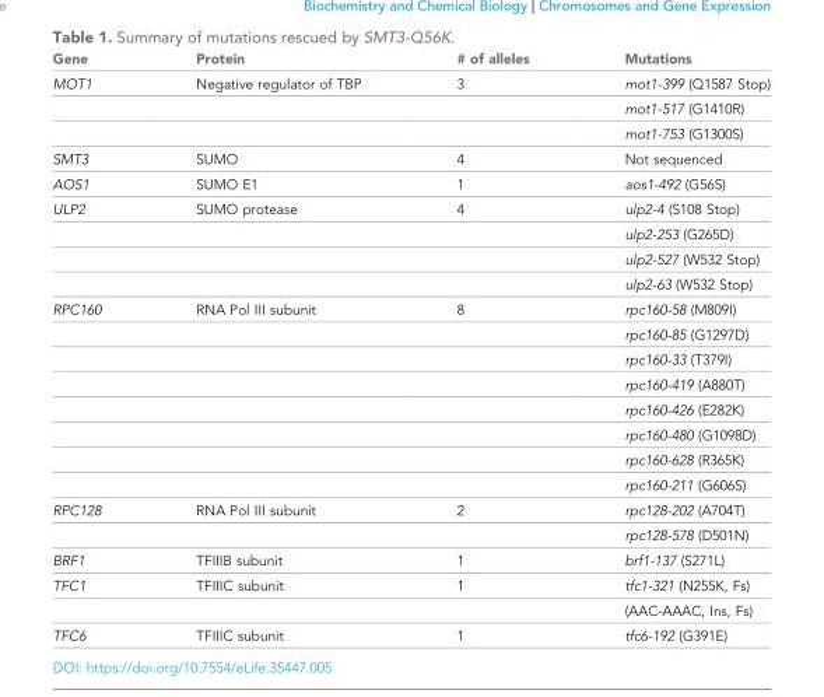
<table><thead><tr><td>Gene</td><td>Protein</td><td># of alleles</td><td>Mutations</td></tr></thead><tbody><tr><td rowspan="3">MOT1</td><td>Negative regulator of TBP</td><td>3</td><td>mot1-399 (Q1587 Stop)</td></tr><tr><td></td><td></td><td>mot1-517 (G1410R)</td></tr><tr><td></td><td></td><td>mot1-753 (G1300S)</td></tr><tr><td>SMT3</td><td>SUMO</td><td>4</td><td>Not sequenced</td></tr><tr><td>AOS1</td><td>SUMO E1</td><td>1</td><td>aos1-492 (G56S)</td></tr><tr><td rowspan="4">ULP2</td><td>SUMO protease</td><td>4</td><td>ulp2-4 (S108 Stop)</td></tr><tr><td></td><td></td><td>ulp2-253 (G265D)</td></tr><tr><td></td><td></td><td>ulp2-527 (W532 Stop)</td></tr><tr><td></td><td></td><td>ulp2-63 (W532 Stop)</td></tr><tr><td rowspan="8">RPC160</td><td>RNA Pol III subunit</td><td>8</td><td>rpc160-58 (M809I)</td></tr><tr><td></td><td></td><td>rpc160-85 (G1297D)</td></tr><tr><td></td><td></td><td>rpc160-33 (T379I)</td></tr><tr><td></td><td></td><td>rpc160-419 (A880T)</td></tr><tr><td></td><td></td><td>rpc160-426 (E282K)</td></tr><tr><td></td><td></td><td>rpc160-480 (G1098D)</td></tr><tr><td></td><td></td><td>rpc160-628 (R365K)</td></tr><tr><td></td><td></td><td>rpc160-211 (G606S)</td></tr><tr><td rowspan="2">RPC128</td><td>RNA Pol III subunit</td><td>2</td><td>rpc128-202 (A704T)</td></tr><tr><td></td><td></td><td>rpc128-578 (D501N)</td></tr><tr><td>BRF1</td><td>TFIIIB subunit</td><td>1</td><td>brf1-137 (S271L)</td></tr><tr><td rowspan="2">TFC1</td><td>TFIIIC subunit</td><td>1</td><td>tfc1-321 (N255K, Fs)</td></tr><tr><td></td><td></td><td>(AAC-AAAC, Ins, Fs)</td></tr><tr><td>TFC6</td><td>TFIIIC subunit</td><td>1</td><td>tfc6-192 (G391E)</td></tr></tbody></table>